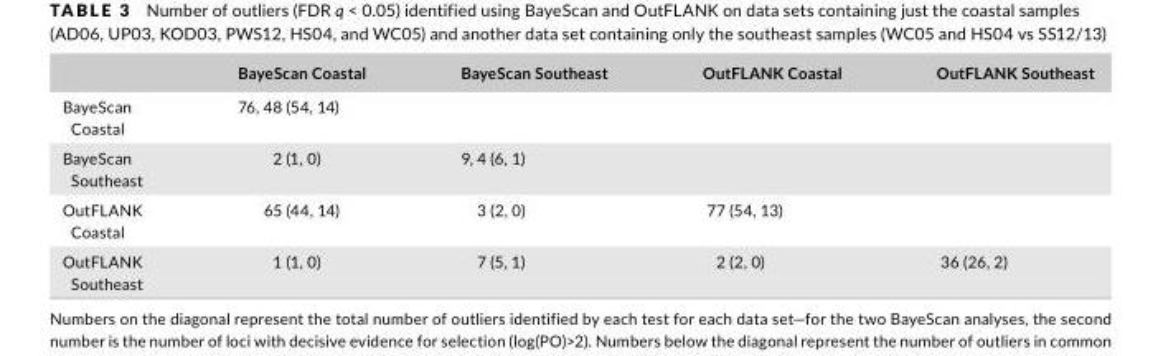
<table><thead><tr><td></td><td>BayeScan Coastal</td><td>BayeScan Southeast</td><td>OutFLANK Coastal</td><td>OutFLANK Southeast</td></tr></thead><tbody><tr><td>BayeScan Coastal</td><td>76, 48 (54, 14)</td><td></td><td></td><td></td></tr><tr><td>BayeScan Southeast</td><td>2 (1, 0)</td><td>9, 4 (6, 1)</td><td></td><td></td></tr><tr><td>OutFLANK Coastal</td><td>65 (44, 14)</td><td>3 (2, 0)</td><td>77 (54, 13)</td><td></td></tr><tr><td>OutFLANK Southeast</td><td>1 (1, 0)</td><td>7 (5, 1)</td><td>2 (2, 0)</td><td>36 (26, 2)</td></tr></tbody></table>